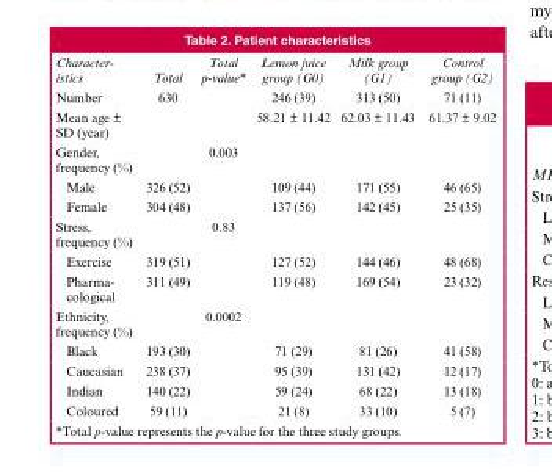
<table><thead><tr><td>Character- istics</td><td>Total</td><td>Total p-value*</td><td>Lemon juice group (G0)</td><td>Milk group (G1)</td><td>Control group (G2)</td></tr></thead><tbody><tr><td>Number</td><td>630</td><td></td><td>246 (39)</td><td>313 (50)</td><td>71 (11)</td></tr><tr><td>Mean age ± SD (year)</td><td></td><td></td><td>58.21 ± 11.42</td><td>62.03 ± 11.43</td><td>61.37 ± 9.02</td></tr><tr><td>Gender, frequency (%)</td><td></td><td>0.003</td><td></td><td></td><td></td></tr><tr><td>Male</td><td>326 (52)</td><td></td><td>109 (44)</td><td>171 (55)</td><td>46 (65)</td></tr><tr><td>Female</td><td>304 (48)</td><td></td><td>137 (56)</td><td>142 (45)</td><td>25 (35)</td></tr><tr><td>Stress, frequency (%)</td><td></td><td>0.83</td><td></td><td></td><td></td></tr><tr><td>Exercise</td><td>319 (51)</td><td></td><td>127 (52)</td><td>144 (46)</td><td>48 (68)</td></tr><tr><td>Pharma- cological</td><td>311 (49)</td><td></td><td>119 (48)</td><td>169 (54)</td><td>23 (32)</td></tr><tr><td>Ethnicity, frequency (%)</td><td></td><td>0.0002</td><td></td><td></td><td></td></tr><tr><td>Black</td><td>193 (30)</td><td></td><td>71 (29)</td><td>81 (26)</td><td>41 (58)</td></tr><tr><td>Caucasian</td><td>238 (37)</td><td></td><td>95 (39)</td><td>131 (42)</td><td>12 (17)</td></tr><tr><td>Indian</td><td>140 (22)</td><td></td><td>59 (24)</td><td>68 (22)</td><td>13 (18)</td></tr><tr><td>Coloured</td><td>59 (11)</td><td></td><td>21 (8)</td><td>33 (10)</td><td>5 (7)</td></tr></tbody></table>